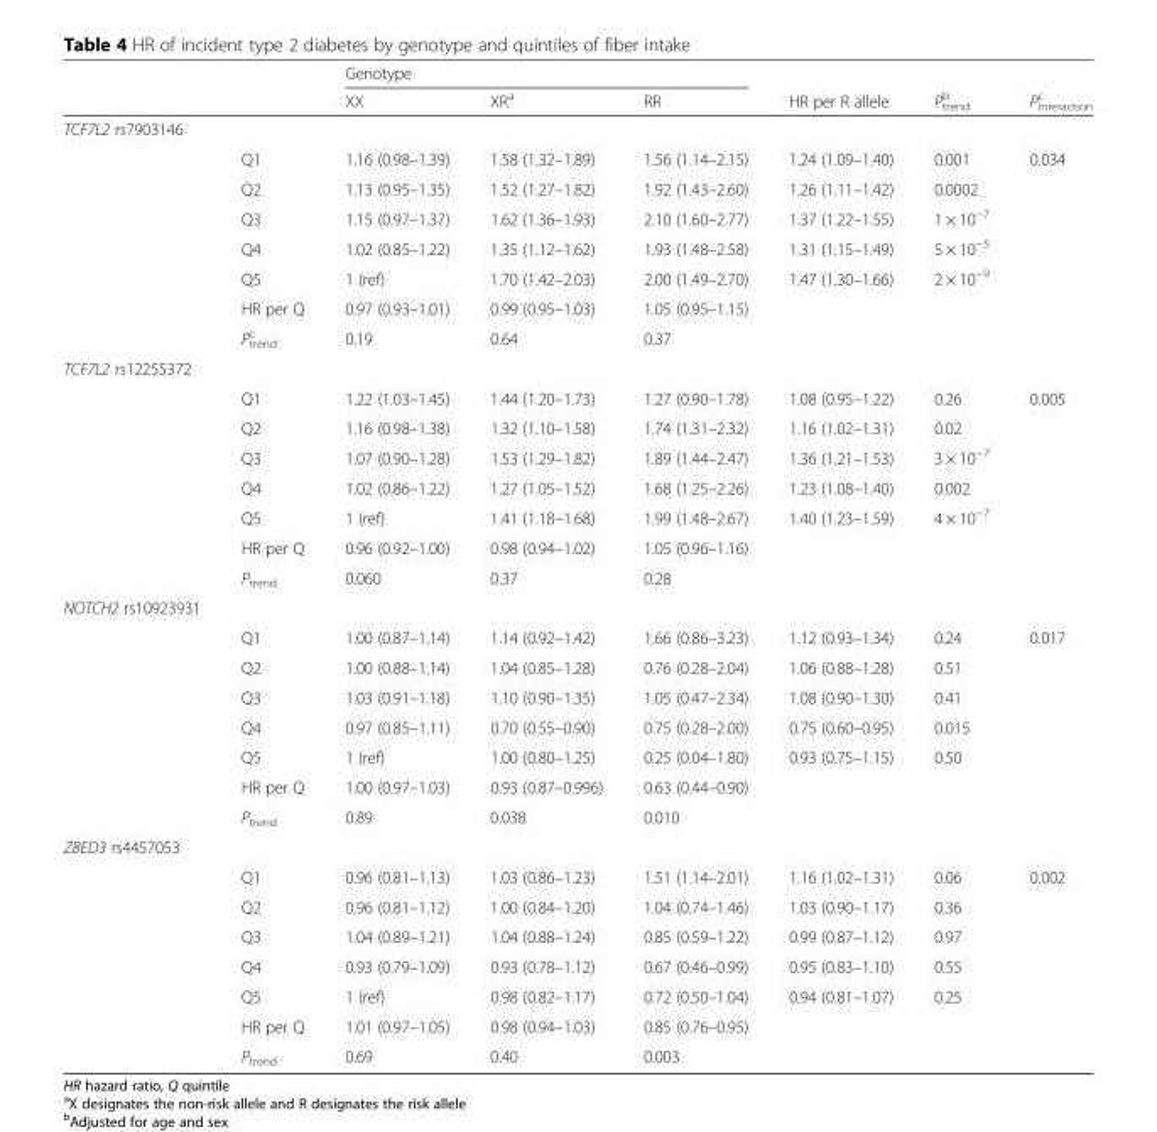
<table><thead><tr><td rowspan="2"></td><td rowspan="2"></td><td colspan="3">Genotype</td><td rowspan="2">HR per R allele</td><td rowspan="2">P<sub>trend</sub> <sup>b</sup></td><td rowspan="2">P<sub>interaction</sub> <sup>c</sup></td></tr><tr><td>XX</td><td>XR<sup>a</sup></td><td>RR</td></tr></thead><tbody><tr><td colspan="8">TCF7L2 rs7903146</td></tr><tr><td></td><td>Q1</td><td>1.16 (0.98–1.39)</td><td>1.58 (1.32–1.89)</td><td>1.56 (1.14–2.15)</td><td>1.24 (1.09–1.40)</td><td>0.001</td><td>0.034</td></tr><tr><td></td><td>Q2</td><td>1.13 (0.95–1.35)</td><td>1.52 (1.27–1.82)</td><td>1.92 (1.43–2.60)</td><td>1.26 (1.11–1.42)</td><td>0.0002</td><td></td></tr><tr><td></td><td>Q3</td><td>1.15 (0.97–1.37)</td><td>1.62 (1.36–1.93)</td><td>2.10 (1.60–2.77)</td><td>1.37 (1.22–1.55)</td><td>1 × 10<sup>−7</sup></td><td></td></tr><tr><td></td><td>Q4</td><td>1.02 (0.85–1.22)</td><td>1.35 (1.12–1.62)</td><td>1.93 (1.48–2.58)</td><td>1.31 (1.15–1.49)</td><td>5 × 10<sup>−5</sup></td><td></td></tr><tr><td></td><td>Q5</td><td>1 (ref)</td><td>1.70 (1.42–2.03)</td><td>2.00 (1.49–2.70)</td><td>1.47 (1.30–1.66)</td><td>2 × 10<sup>−9</sup></td><td></td></tr><tr><td></td><td>HR per Q</td><td>0.97 (0.93–1.01)</td><td>0.99 (0.95–1.03)</td><td>1.05 (0.95–1.15)</td><td></td><td></td><td></td></tr><tr><td></td><td>P<sub>trend</sub> <sup>c</sup></td><td>0.19</td><td>0.64</td><td>0.37</td><td></td><td></td><td></td></tr><tr><td colspan="8">TCF7L2 rs12255372</td></tr><tr><td></td><td>Q1</td><td>1.22 (1.03–1.45)</td><td>1.44 (1.20–1.73)</td><td>1.27 (0.90–1.78)</td><td>1.08 (0.95–1.22)</td><td>0.26</td><td>0.005</td></tr><tr><td></td><td>Q2</td><td>1.16 (0.98–1.38)</td><td>1.32 (1.10–1.58)</td><td>1.74 (1.31–2.32)</td><td>1.16 (1.02–1.31)</td><td>0.02</td><td></td></tr><tr><td></td><td>Q3</td><td>1.07 (0.90–1.28)</td><td>1.53 (1.29–1.82)</td><td>1.89 (1.44–2.47)</td><td>1.36 (1.21–1.53)</td><td>3 × 10<sup>−7</sup></td><td></td></tr><tr><td></td><td>Q4</td><td>1.02 (0.86–1.22)</td><td>1.27 (1.05–1.52)</td><td>1.68 (1.25–2.26)</td><td>1.23 (1.08–1.40)</td><td>0.002</td><td></td></tr><tr><td></td><td>Q5</td><td>1 (ref)</td><td>1.41 (1.18–1.68)</td><td>1.99 (1.48–2.67)</td><td>1.40 (1.23–1.59)</td><td>4 × 10<sup>−7</sup></td><td></td></tr><tr><td></td><td>HR per Q</td><td>0.96 (0.92–1.00)</td><td>0.98 (0.94–1.02)</td><td>1.05 (0.96–1.16)</td><td></td><td></td><td></td></tr><tr><td></td><td>P<sub>trend</sub></td><td>0.060</td><td>0.37</td><td>0.28</td><td></td><td></td><td></td></tr><tr><td colspan="8">NOTCH2 rs10923931</td></tr><tr><td></td><td>Q1</td><td>1.00 (0.87–1.14)</td><td>1.14 (0.92–1.42)</td><td>1.66 (0.86–3.23)</td><td>1.12 (0.93–1.34)</td><td>0.24</td><td>0.017</td></tr><tr><td></td><td>Q2</td><td>1.00 (0.88–1.14)</td><td>1.04 (0.85–1.28)</td><td>0.76 (0.28–2.04)</td><td>1.06 (0.88–1.28)</td><td>0.51</td><td></td></tr><tr><td></td><td>Q3</td><td>1.03 (0.91–1.18)</td><td>1.10 (0.90–1.35)</td><td>1.05 (0.47–2.34)</td><td>1.08 (0.90–1.30)</td><td>0.41</td><td></td></tr><tr><td></td><td>Q4</td><td>0.97 (0.85–1.11)</td><td>0.70 (0.55–0.90)</td><td>0.75 (0.28–2.00)</td><td>0.75 (0.60–0.95)</td><td>0.015</td><td></td></tr><tr><td></td><td>Q5</td><td>1 (ref)</td><td>1.00 (0.80–1.25)</td><td>0.25 (0.04–1.80)</td><td>0.93 (0.75–1.15)</td><td>0.50</td><td></td></tr><tr><td></td><td>HR per Q</td><td>1.00 (0.97–1.03)</td><td>0.93 (0.87–0.996)</td><td>0.63 (0.44–0.90)</td><td></td><td></td><td></td></tr><tr><td></td><td>P<sub>trend</sub></td><td>0.89</td><td>0.038</td><td>0.010</td><td></td><td></td><td></td></tr><tr><td colspan="8">ZBED3 rs4457053</td></tr><tr><td></td><td>Q1</td><td>0.96 (0.81–1.13)</td><td>1.03 (0.86–1.23)</td><td>1.51 (1.14–2.01)</td><td>1.16 (1.02–1.31)</td><td>0.06</td><td>0.002</td></tr><tr><td></td><td>Q2</td><td>0.96 (0.81–1.12)</td><td>1.00 (0.84–1.20)</td><td>1.04 (0.74–1.46)</td><td>1.03 (0.90–1.17)</td><td>0.36</td><td></td></tr><tr><td></td><td>Q3</td><td>1.04 (0.89–1.21)</td><td>1.04 (0.88–1.24)</td><td>0.85 (0.59–1.22)</td><td>0.99 (0.87–1.12)</td><td>0.97</td><td></td></tr><tr><td></td><td>Q4</td><td>0.93 (0.79–1.09)</td><td>0.93 (0.78–1.12)</td><td>0.67 (0.46–0.99)</td><td>0.95 (0.83–1.10)</td><td>0.55</td><td></td></tr><tr><td></td><td>Q5</td><td>1 (ref)</td><td>0.98 (0.82–1.17)</td><td>0.72 (0.50–1.04)</td><td>0.94 (0.81–1.07)</td><td>0.25</td><td></td></tr><tr><td></td><td>HR per Q</td><td>1.01 (0.97–1.05)</td><td>0.98 (0.94–1.03)</td><td>0.85 (0.76–0.95)</td><td></td><td></td><td></td></tr><tr><td></td><td>P<sub>trend</sub></td><td>0.69</td><td>0.40</td><td>0.003</td><td></td><td></td><td></td></tr></tbody></table>